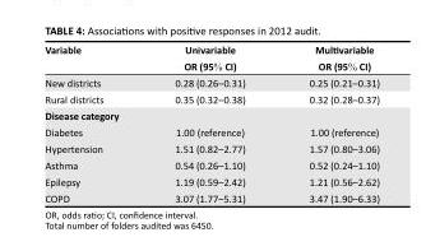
<table><thead><tr><td>Variable</td><td>Univariable OR (95% CI)</td><td>Multivariable OR (95% CI)</td></tr></thead><tbody><tr><td>New districts</td><td>0.28 (0.26–0.31)</td><td>0.25 (0.21–0.31)</td></tr><tr><td>Rural districts</td><td>0.35 (0.32–0.38)</td><td>0.32 (0.28–0.37)</td></tr><tr><td colspan="3">Disease category</td></tr><tr><td>Diabetes</td><td>1.00 (reference)</td><td>1.00 (reference)</td></tr><tr><td>Hypertension</td><td>1.51 (0.82–2.77)</td><td>1.57 (0.80–3.06)</td></tr><tr><td>Asthma</td><td>0.54 (0.26–1.10)</td><td>0.52 (0.24–1.10)</td></tr><tr><td>Epilepsy</td><td>1.19 (0.59–2.42)</td><td>1.21 (0.56–2.62)</td></tr><tr><td>COPD</td><td>3.07 (1.77–5.31)</td><td>3.47 (1.90–6.33)</td></tr></tbody></table>